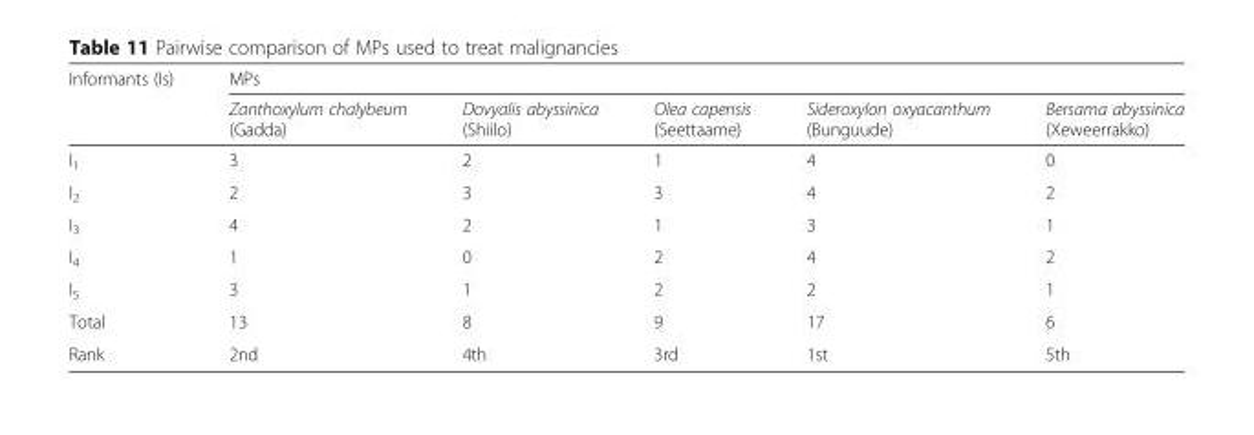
<table><thead><tr><td rowspan="2">Informants (Is)</td><td colspan="5">MPs</td></tr><tr><td>Zanthoxylum chalybeum (Gadda)</td><td>Dovyalis abyssinica (Shiilo)</td><td>Olea capensis (Seettaame)</td><td>Sideroxylon oxyacanthum (Bunguude)</td><td>Bersama abyssinica (Xeweerrakko)</td></tr></thead><tbody><tr><td>I<sub>1</sub></td><td>3</td><td>2</td><td>1</td><td>4</td><td>0</td></tr><tr><td>I<sub>2</sub></td><td>2</td><td>3</td><td>3</td><td>4</td><td>2</td></tr><tr><td>I<sub>3</sub></td><td>4</td><td>2</td><td>1</td><td>3</td><td>1</td></tr><tr><td>I<sub>4</sub></td><td>1</td><td>0</td><td>2</td><td>4</td><td>2</td></tr><tr><td>I<sub>5</sub></td><td>3</td><td>1</td><td>2</td><td>2</td><td>1</td></tr><tr><td>Total</td><td>13</td><td>8</td><td>9</td><td>17</td><td>6</td></tr><tr><td>Rank</td><td>2nd</td><td>4th</td><td>3rd</td><td>1st</td><td>5th</td></tr></tbody></table>